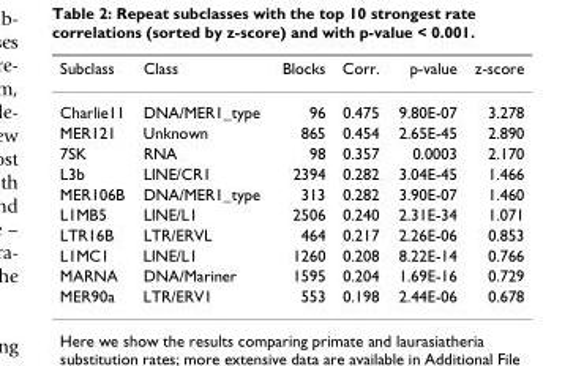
<table><thead><tr><td>Subclass</td><td>Class</td><td>Blocks</td><td>Corr.</td><td>p-value</td><td>z-score</td></tr></thead><tbody><tr><td>Charlie11</td><td>DNA/MER1_type</td><td>96</td><td>0.475</td><td>9.80E-07</td><td>3.278</td></tr><tr><td>MER121</td><td>Unknown</td><td>865</td><td>0.454</td><td>2.65E-45</td><td>2.890</td></tr><tr><td>7SK</td><td>RNA</td><td>98</td><td>0.357</td><td>0.0003</td><td>2.170</td></tr><tr><td>L3b</td><td>LINE/CR1</td><td>2394</td><td>0.282</td><td>3.04E-45</td><td>1.466</td></tr><tr><td>MER106B</td><td>DNA/MER1_type</td><td>313</td><td>0.282</td><td>3.90E-07</td><td>1.460</td></tr><tr><td>L1MB5</td><td>LINE/L1</td><td>2506</td><td>0.240</td><td>2.31E-34</td><td>1.071</td></tr><tr><td>LTR16B</td><td>LTR/ERVL</td><td>464</td><td>0.217</td><td>2.26E-06</td><td>0.853</td></tr><tr><td>L1MC1</td><td>LINE/L1</td><td>1260</td><td>0.208</td><td>8.22E-14</td><td>0.766</td></tr><tr><td>MARNA</td><td>DNA/Mariner</td><td>1595</td><td>0.204</td><td>1.69E-16</td><td>0.729</td></tr><tr><td>MER90a</td><td>LTR/ERV1</td><td>553</td><td>0.198</td><td>2.44E-06</td><td>0.678</td></tr></tbody></table>